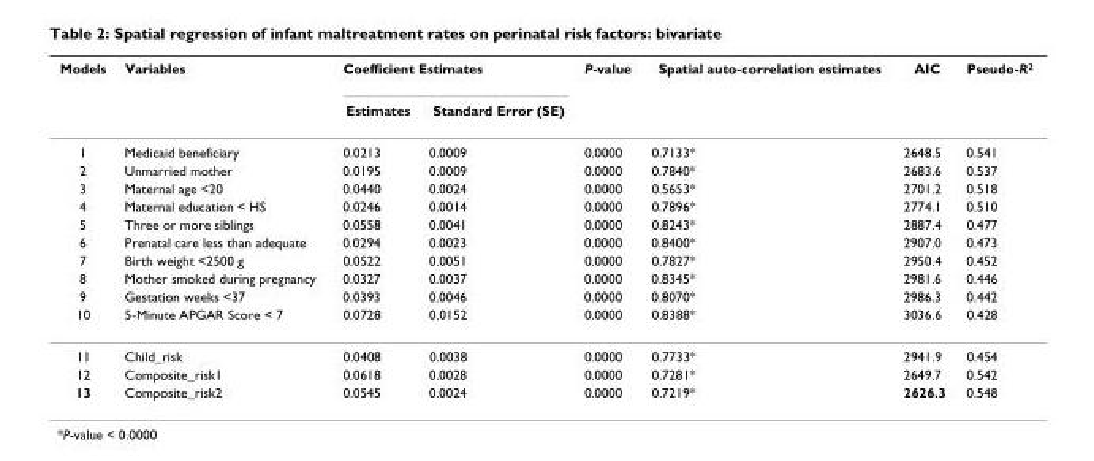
<table><thead><tr><td rowspan="2">Models</td><td rowspan="2">Variables</td><td colspan="2">Coefficient Estimates</td><td rowspan="2">P-value</td><td rowspan="2">Spatial auto-correlation estimates</td><td rowspan="2">AIC</td><td rowspan="2">Pseudo-R<sup>2</sup></td></tr><tr><td>Estimates</td><td>Standard Error (SE)</td></tr></thead><tbody><tr><td>1</td><td>Medicaid beneficiary</td><td>0.0213</td><td>0.0009</td><td>0.0000</td><td>0.7133*</td><td>2648.5</td><td>0.541</td></tr><tr><td>2</td><td>Unmarried mother</td><td>0.0195</td><td>0.0009</td><td>0.0000</td><td>0.7840*</td><td>2683.6</td><td>0.537</td></tr><tr><td>3</td><td>Maternal age &lt;20</td><td>0.0440</td><td>0.0024</td><td>0.0000</td><td>0.5653*</td><td>2701.2</td><td>0.518</td></tr><tr><td>4</td><td>Maternal education &lt; HS</td><td>0.0246</td><td>0.0014</td><td>0.0000</td><td>0.7896*</td><td>2774.1</td><td>0.510</td></tr><tr><td>5</td><td>Three or more siblings</td><td>0.0558</td><td>0.0041</td><td>0.0000</td><td>0.8243*</td><td>2887.4</td><td>0.477</td></tr><tr><td>6</td><td>Prenatal care less than adequate</td><td>0.0294</td><td>0.0023</td><td>0.0000</td><td>0.8400*</td><td>2907.0</td><td>0.473</td></tr><tr><td>7</td><td>Birth weight &lt;2500 g</td><td>0.0522</td><td>0.0051</td><td>0.0000</td><td>0.7827*</td><td>2950.4</td><td>0.452</td></tr><tr><td>8</td><td>Mother smoked during pregnancy</td><td>0.0327</td><td>0.0037</td><td>0.0000</td><td>0.8345*</td><td>2981.6</td><td>0.446</td></tr><tr><td>9</td><td>Gestation weeks &lt;37</td><td>0.0393</td><td>0.0046</td><td>0.0000</td><td>0.8070*</td><td>2986.3</td><td>0.442</td></tr><tr><td>10</td><td>5-Minute APGAR Score &lt; 7</td><td>0.0728</td><td>0.0152</td><td>0.0000</td><td>0.8388*</td><td>3036.6</td><td>0.428</td></tr><tr><td>11</td><td>Child_risk</td><td>0.0408</td><td>0.0038</td><td>0.0000</td><td>0.7733*</td><td>2941.9</td><td>0.454</td></tr><tr><td>12</td><td>Composite_risk1</td><td>0.0618</td><td>0.0028</td><td>0.0000</td><td>0.7281*</td><td>2649.7</td><td>0.542</td></tr><tr><td>13</td><td>Composite_risk2</td><td>0.0545</td><td>0.0024</td><td>0.0000</td><td>0.7219*</td><td>2626.3</td><td>0.548</td></tr></tbody></table>